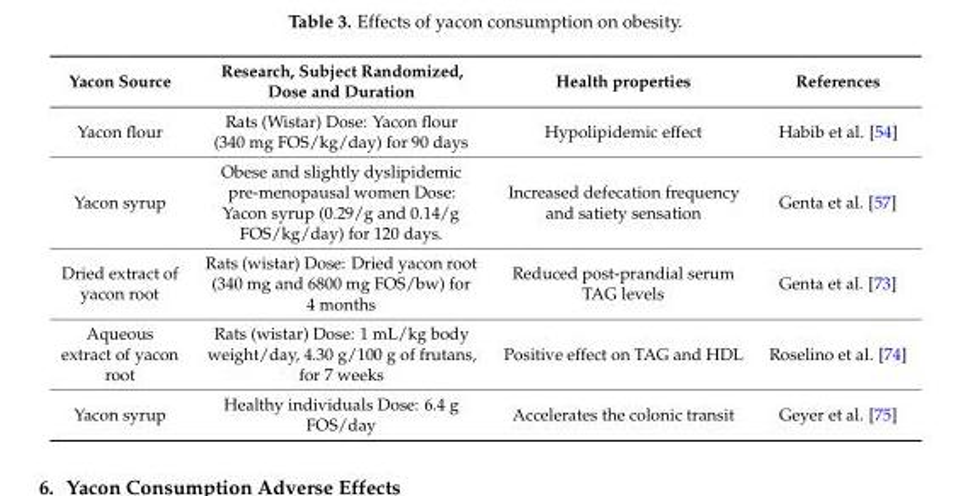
<table><thead><tr><td>Yacon Source</td><td>Research, Subject Randomized, Dose and Duration</td><td>Health properties</td><td>References</td></tr></thead><tbody><tr><td>Yacon flour</td><td>Rats (Wistar) Dose: Yacon flour (340 mg FOS/kg/day) for 90 days</td><td>Hypolipidemic effect</td><td>Habib et al. [54]</td></tr><tr><td>Yacon syrup</td><td>Obese and slightly dyslipidemic pre-menopausal women Dose: Yacon syrup (0.29/g and 0.14/g FOS/kg/day) for 120 days.</td><td>Increased defecation frequency and satiety sensation</td><td>Genta et al. [57]</td></tr><tr><td>Dried extract of yacon root</td><td>Rats (wistar) Dose: Dried yacon root (340 mg and 6800 mg FOS/bw) for 4 months</td><td>Reduced post-prandial serum TAG levels</td><td>Genta et al. [73]</td></tr><tr><td>Aqueous extract of yacon root</td><td>Rats (wistar) Dose: 1 mL/kg body weight/day, 4.30 g/100 g of frutans, for 7 weeks</td><td>Positive effect on TAG and HDL</td><td>Roselino et al. [74]</td></tr><tr><td>Yacon syrup</td><td>Healthy individuals Dose: 6.4 g FOS/day</td><td>Accelerates the colonic transit</td><td>Geyer et al. [75]</td></tr></tbody></table>